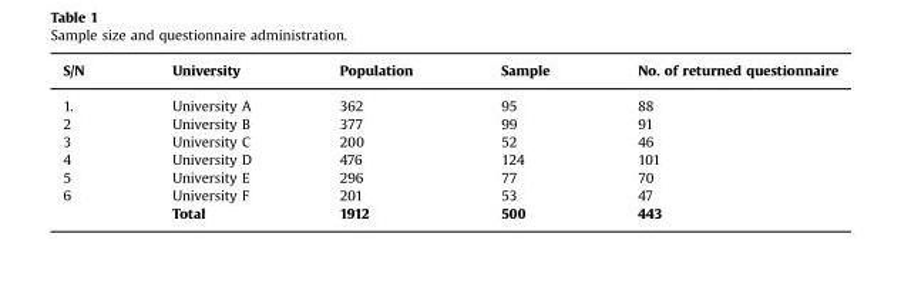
<table><thead><tr><td>S/N</td><td>University</td><td>Population</td><td>Sample</td><td>No. of returned questionnaire</td></tr></thead><tbody><tr><td>1.</td><td>University A</td><td>362</td><td>95</td><td>88</td></tr><tr><td>2</td><td>University B</td><td>377</td><td>99</td><td>91</td></tr><tr><td>3</td><td>University C</td><td>200</td><td>52</td><td>46</td></tr><tr><td>4</td><td>University D</td><td>476</td><td>124</td><td>101</td></tr><tr><td>5</td><td>University E</td><td>296</td><td>77</td><td>70</td></tr><tr><td rowspan="2">6</td><td>University F</td><td>201</td><td>53</td><td>47</td></tr><tr><td>Total</td><td>1912</td><td>500</td><td>443</td></tr></tbody></table>